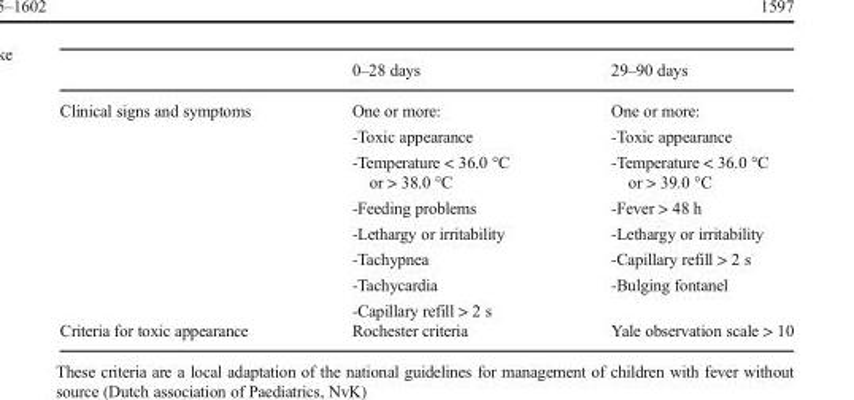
<table><thead><tr><td></td><td>0–28 days</td><td>29–90 days</td></tr></thead><tbody><tr><td>Clinical signs and symptoms</td><td>One or more: -Toxic appearance -Temperature &lt; 36.0 °C or &gt; 38.0 °C -Feeding problems -Lethargy or irritability -Tachypnea -Tachycardia -Capillary refill &gt; 2 s</td><td>One or more: -Toxic appearance -Temperature &lt; 36.0 °C or &gt; 39.0 °C -Fever &gt; 48 h -Lethargy or irritability -Capillary refill &gt; 2 s -Bulging fontanel</td></tr><tr><td>Criteria for toxic appearance</td><td>Rochester criteria</td><td>Yale observation scale &gt; 10</td></tr></tbody></table>